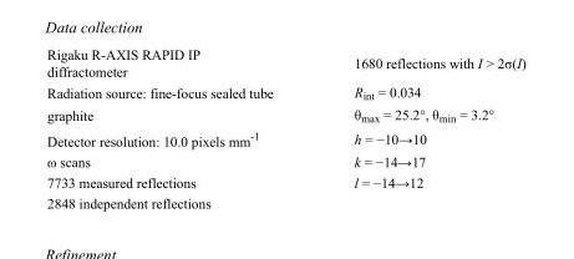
<table><tbody><tr><td>Rigaku R-AXIS RAPID IP diffractometer</td><td>1680 reflections with I &gt; 2σ(I)</td></tr><tr><td>Radiation source: fine-focus sealed tube</td><td>R<sub>int</sub> = 0.034</td></tr><tr><td>graphite</td><td>θ<sub>max</sub> = 25.2°, θ<sub>min</sub> = 3.2°</td></tr><tr><td>Detector resolution: 10.0 pixels mm<sup>-1</sup></td><td>h = −10→10</td></tr><tr><td>ω scans</td><td>k = −14→17</td></tr><tr><td>7733 measured reflections</td><td>l = −14→12</td></tr><tr><td>2848 independent reflections</td><td></td></tr></tbody></table>